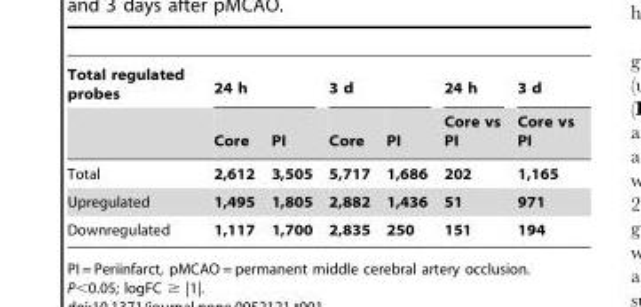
<table><thead><tr><td rowspan="2">Total regulated probes</td><td colspan="2">24 h</td><td colspan="2">3 d</td><td rowspan="2">24 h Core vs PI</td><td rowspan="2">3 d Core vs PI</td></tr><tr><td>Core</td><td>PI</td><td>Core</td><td>PI</td></tr></thead><tbody><tr><td>Total</td><td>2,612</td><td>3,505</td><td>5,717</td><td>1,686</td><td>202</td><td>1,165</td></tr><tr><td>Upregulated</td><td>1,495</td><td>1,805</td><td>2,882</td><td>1,436</td><td>51</td><td>971</td></tr><tr><td>Downregulated</td><td>1,117</td><td>1,700</td><td>2,835</td><td>250</td><td>151</td><td>194</td></tr></tbody></table>